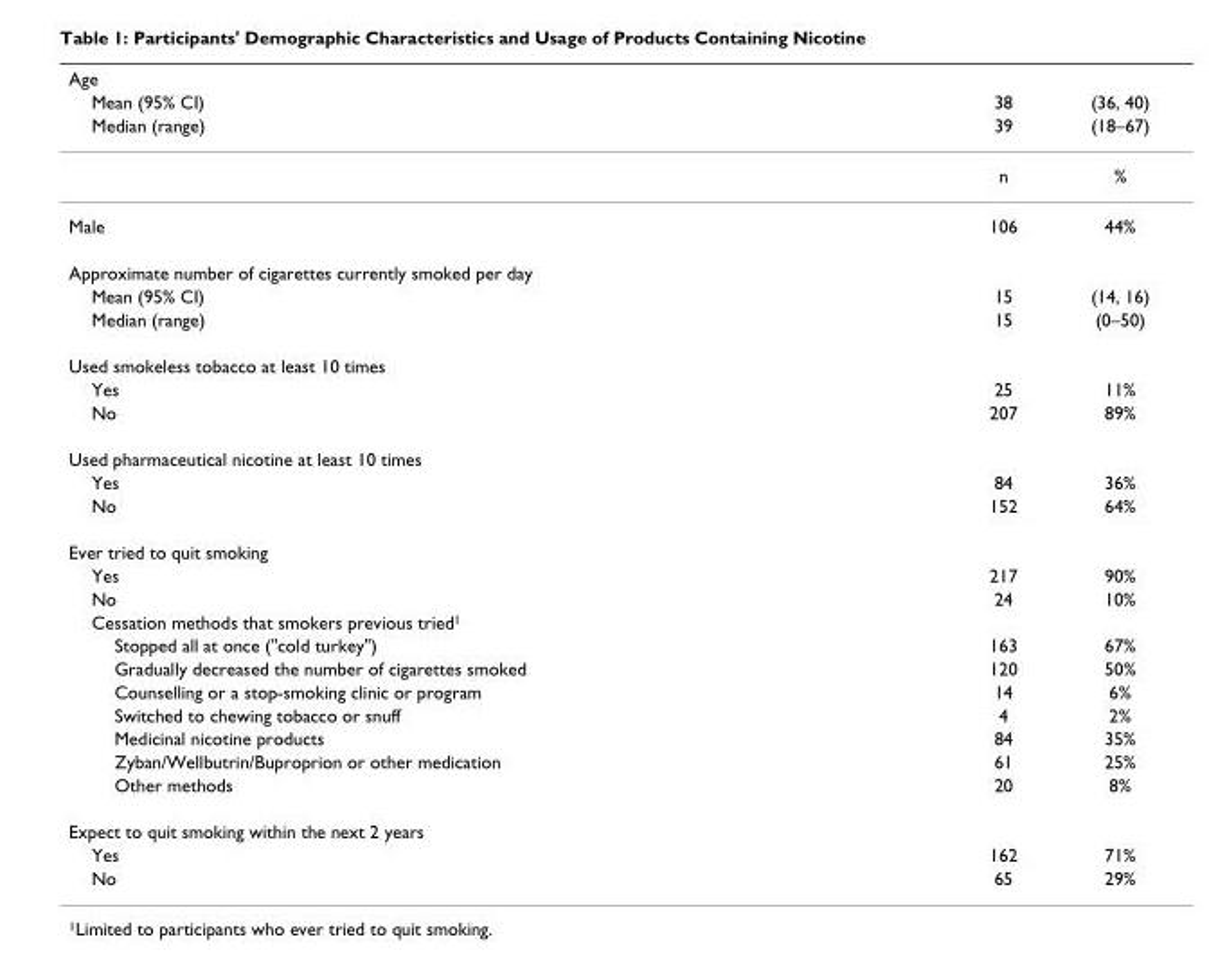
<table><thead><tr><td colspan="3">Age</td></tr><tr><td rowspan="2">Mean (95% CI) Median (range)</td><td rowspan="2">38 39</td><td rowspan="2">(36, 40) (18–67)</td></tr><tr></tr></thead><tbody><tr><td></td><td>n</td><td>%</td></tr><tr><td>Male</td><td>106</td><td>44%</td></tr><tr><td colspan="3">Approximate number of cigarettes currently smoked per day</td></tr><tr><td>Mean (95% CI)</td><td>15</td><td>(14, 16)</td></tr><tr><td>Median (range)</td><td>15</td><td>(0–50)</td></tr><tr><td colspan="3">Used smokeless tobacco at least 10 times</td></tr><tr><td>Yes</td><td>25</td><td>11%</td></tr><tr><td>No</td><td>207</td><td>89%</td></tr><tr><td colspan="3">Used pharmaceutical nicotine at least 10 times</td></tr><tr><td>Yes</td><td>84</td><td>36%</td></tr><tr><td>No</td><td>152</td><td>64%</td></tr><tr><td colspan="3">Ever tried to quit smoking</td></tr><tr><td>Yes</td><td>217</td><td>90%</td></tr><tr><td>No</td><td>24</td><td>10%</td></tr><tr><td colspan="3">Cessation methods that smokers previous tried<sup>1</sup></td></tr><tr><td>Stopped all at once (&quot;cold turkey&quot;)</td><td>163</td><td>67%</td></tr><tr><td>Gradually decreased the number of cigarettes smoked</td><td>120</td><td>50%</td></tr><tr><td>Counselling or a stop-smoking clinic or program</td><td>14</td><td>6%</td></tr><tr><td>Switched to chewing tobacco or snuff</td><td>4</td><td>2%</td></tr><tr><td>Medicinal nicotine products</td><td>84</td><td>35%</td></tr><tr><td>Zyban/Wellbutrin/Buproprion or other medication</td><td>61</td><td>25%</td></tr><tr><td>Other methods</td><td>20</td><td>8%</td></tr><tr><td colspan="3">Expect to quit smoking within the next 2 years</td></tr><tr><td>Yes</td><td>162</td><td>71%</td></tr><tr><td>No</td><td>65</td><td>29%</td></tr></tbody></table>